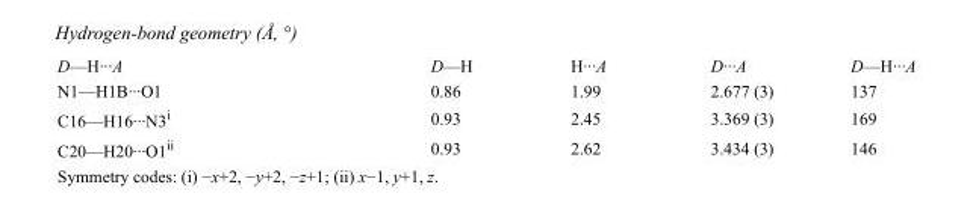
<table><tbody><tr><td>D—H···A</td><td>D—H</td><td>H···A</td><td>D···A</td><td>D—H···A</td></tr><tr><td>N1—H1B···O1</td><td>0.86</td><td>1.99</td><td>2.677 (3)</td><td>137</td></tr><tr><td>C16—H16···N3<sup>i</sup></td><td>0.93</td><td>2.45</td><td>3.369 (3)</td><td>169</td></tr><tr><td>C20—H20···O1<sup>ii</sup></td><td>0.93</td><td>2.62</td><td>3.434 (3)</td><td>146</td></tr></tbody></table>